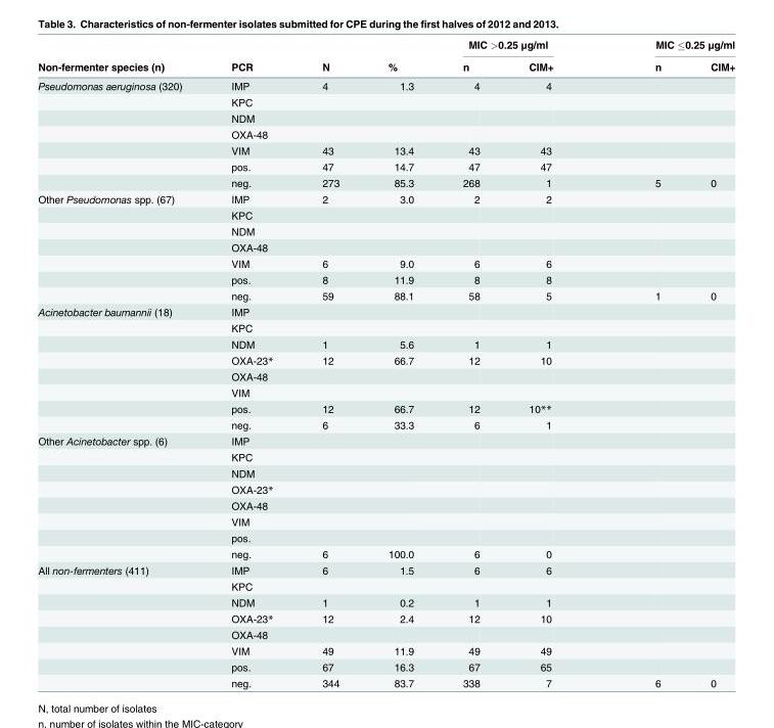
<table><thead><tr><td rowspan="2">Non-fermenter species (n)</td><td rowspan="2">PCR</td><td rowspan="2">N</td><td rowspan="2">%</td><td colspan="2">MIC &gt;0.25 μg/ml</td><td colspan="2">MIC ≤0.25 μg/ml</td></tr><tr><td>n</td><td>CIM+</td><td>n</td><td>CIM+</td></tr></thead><tbody><tr><td rowspan="7">Pseudomonas aeruginosa (320)</td><td>IMP</td><td>4</td><td>1.3</td><td>4</td><td>4</td><td></td><td></td></tr><tr><td>KPC</td><td></td><td></td><td></td><td></td><td></td><td></td></tr><tr><td>NDM</td><td></td><td></td><td></td><td></td><td></td><td></td></tr><tr><td>OXA-48</td><td></td><td></td><td></td><td></td><td></td><td></td></tr><tr><td>VIM</td><td>43</td><td>13.4</td><td>43</td><td>43</td><td></td><td></td></tr><tr><td>pos.</td><td>47</td><td>14.7</td><td>47</td><td>47</td><td></td><td></td></tr><tr><td>neg.</td><td>273</td><td>85.3</td><td>268</td><td>1</td><td>5</td><td>0</td></tr><tr><td rowspan="7">Other Pseudomonas spp. (67)</td><td>IMP</td><td>2</td><td>3.0</td><td>2</td><td>2</td><td></td><td></td></tr><tr><td>KPC</td><td></td><td></td><td></td><td></td><td></td><td></td></tr><tr><td>NDM</td><td></td><td></td><td></td><td></td><td></td><td></td></tr><tr><td>OXA-48</td><td></td><td></td><td></td><td></td><td></td><td></td></tr><tr><td>VIM</td><td>6</td><td>9.0</td><td>6</td><td>6</td><td></td><td></td></tr><tr><td>pos.</td><td>8</td><td>11.9</td><td>8</td><td>8</td><td></td><td></td></tr><tr><td>neg.</td><td>59</td><td>88.1</td><td>58</td><td>5</td><td>1</td><td>0</td></tr><tr><td rowspan="8">Acinetobacter baumannii (18)</td><td>IMP</td><td></td><td></td><td></td><td></td><td></td><td></td></tr><tr><td>KPC</td><td></td><td></td><td></td><td></td><td></td><td></td></tr><tr><td>NDM</td><td>1</td><td>5.6</td><td>1</td><td>1</td><td></td><td></td></tr><tr><td>OXA-23*</td><td>12</td><td>66.7</td><td>12</td><td>10</td><td></td><td></td></tr><tr><td>OXA-48</td><td></td><td></td><td></td><td></td><td></td><td></td></tr><tr><td>VIM</td><td></td><td></td><td></td><td></td><td></td><td></td></tr><tr><td>pos.</td><td>12</td><td>66.7</td><td>12</td><td>10**</td><td></td><td></td></tr><tr><td>neg.</td><td>6</td><td>33.3</td><td>6</td><td>1</td><td></td><td></td></tr><tr><td rowspan="8">Other Acinetobacter spp. (6)</td><td>IMP</td><td></td><td></td><td></td><td></td><td></td><td></td></tr><tr><td>KPC</td><td></td><td></td><td></td><td></td><td></td><td></td></tr><tr><td>NDM</td><td></td><td></td><td></td><td></td><td></td><td></td></tr><tr><td>OXA-23*</td><td></td><td></td><td></td><td></td><td></td><td></td></tr><tr><td>OXA-48</td><td></td><td></td><td></td><td></td><td></td><td></td></tr><tr><td>VIM</td><td></td><td></td><td></td><td></td><td></td><td></td></tr><tr><td>pos.</td><td></td><td></td><td></td><td></td><td></td><td></td></tr><tr><td>neg.</td><td>6</td><td>100.0</td><td>6</td><td>0</td><td></td><td></td></tr><tr><td rowspan="8">All non-fermenters (411)</td><td>IMP</td><td>6</td><td>1.5</td><td>6</td><td>6</td><td></td><td></td></tr><tr><td>KPC</td><td></td><td></td><td></td><td></td><td></td><td></td></tr><tr><td>NDM</td><td>1</td><td>0.2</td><td>1</td><td>1</td><td></td><td></td></tr><tr><td>OXA-23*</td><td>12</td><td>2.4</td><td>12</td><td>10</td><td></td><td></td></tr><tr><td>OXA-48</td><td></td><td></td><td></td><td></td><td></td><td></td></tr><tr><td>VIM</td><td>49</td><td>11.9</td><td>49</td><td>49</td><td></td><td></td></tr><tr><td>pos.</td><td>67</td><td>16.3</td><td>67</td><td>65</td><td></td><td></td></tr><tr><td>neg.</td><td>344</td><td>83.7</td><td>338</td><td>7</td><td>6</td><td>0</td></tr></tbody></table>